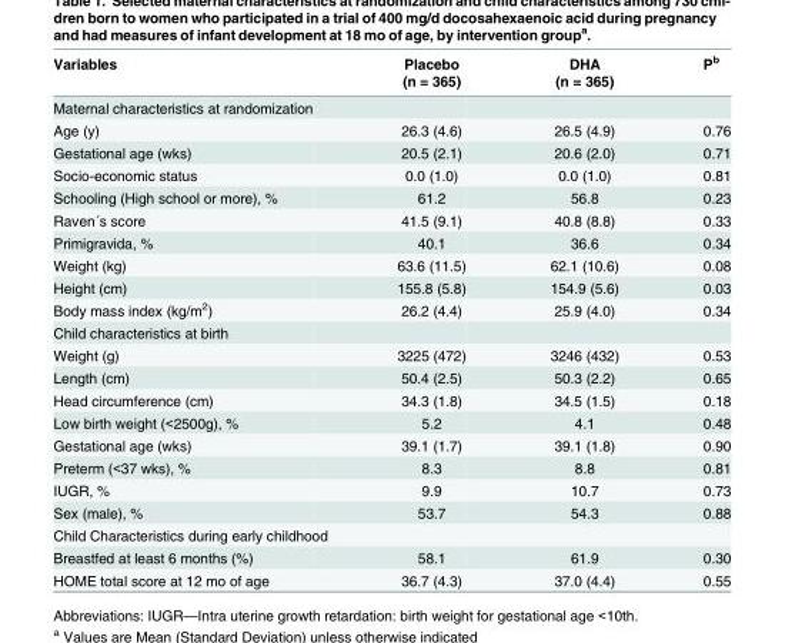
<table><thead><tr><td rowspan="2">Variables</td><td rowspan="2">Placebo (n = 365)</td><td rowspan="2">DHA (n = 365)</td><td rowspan="2">P<sup>b</sup></td></tr><tr></tr></thead><tbody><tr><td colspan="4">Maternal characteristics at randomization</td></tr><tr><td>Age (y)</td><td>26.3 (4.6)</td><td>26.5 (4.9)</td><td>0.76</td></tr><tr><td>Gestational age (wks)</td><td>20.5 (2.1)</td><td>20.6 (2.0)</td><td>0.71</td></tr><tr><td>Socio-economic status</td><td>0.0 (1.0)</td><td>0.0 (1.0)</td><td>0.81</td></tr><tr><td>Schooling (High school or more), %</td><td>61.2</td><td>56.8</td><td>0.23</td></tr><tr><td>Raven´s score</td><td>41.5 (9.1)</td><td>40.8 (8.8)</td><td>0.33</td></tr><tr><td>Primigravida, %</td><td>40.1</td><td>36.6</td><td>0.34</td></tr><tr><td>Weight (kg)</td><td>63.6 (11.5)</td><td>62.1 (10.6)</td><td>0.08</td></tr><tr><td>Height (cm)</td><td>155.8 (5.8)</td><td>154.9 (5.6)</td><td>0.03</td></tr><tr><td>Body mass index (kg/m<sup>2</sup>)</td><td>26.2 (4.4)</td><td>25.9 (4.0)</td><td>0.34</td></tr><tr><td colspan="4">Child characteristics at birth</td></tr><tr><td>Weight (g)</td><td>3225 (472)</td><td>3246 (432)</td><td>0.53</td></tr><tr><td>Length (cm)</td><td>50.4 (2.5)</td><td>50.3 (2.2)</td><td>0.65</td></tr><tr><td>Head circumference (cm)</td><td>34.3 (1.8)</td><td>34.5 (1.5)</td><td>0.18</td></tr><tr><td>Low birth weight (&lt;2500g), %</td><td>5.2</td><td>4.1</td><td>0.48</td></tr><tr><td>Gestational age (wks)</td><td>39.1 (1.7)</td><td>39.1 (1.8)</td><td>0.90</td></tr><tr><td>Preterm (&lt;37 wks), %</td><td>8.3</td><td>8.8</td><td>0.81</td></tr><tr><td>IUGR, %</td><td>9.9</td><td>10.7</td><td>0.73</td></tr><tr><td>Sex (male), %</td><td>53.7</td><td>54.3</td><td>0.88</td></tr><tr><td colspan="4">Child Characteristics during early childhood</td></tr><tr><td>Breastfed at least 6 months (%)</td><td>58.1</td><td>61.9</td><td>0.30</td></tr><tr><td>HOME total score at 12 mo of age</td><td>36.7 (4.3)</td><td>37.0 (4.4)</td><td>0.55</td></tr></tbody></table>